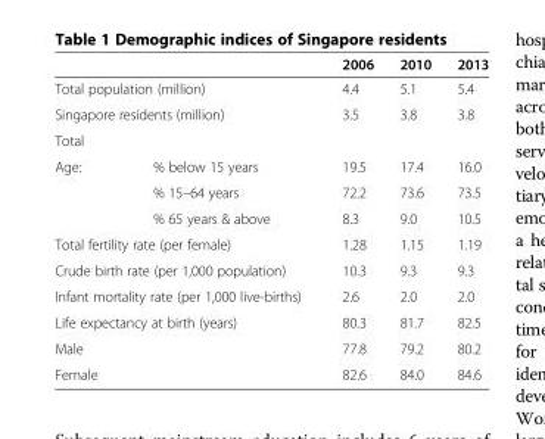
<table><thead><tr><td></td><td></td><td>2006</td><td>2010</td><td>2013</td></tr></thead><tbody><tr><td colspan="2">Total population (million)</td><td>4.4</td><td>5.1</td><td>5.4</td></tr><tr><td colspan="2">Singapore residents (million)</td><td>3.5</td><td>3.8</td><td>3.8</td></tr><tr><td colspan="5">Total</td></tr><tr><td rowspan="3">Age:</td><td>% below 15 years</td><td>19.5</td><td>17.4</td><td>16.0</td></tr><tr><td>% 15–64 years</td><td>72.2</td><td>73.6</td><td>73.5</td></tr><tr><td>% 65 years &amp; above</td><td>8.3</td><td>9.0</td><td>10.5</td></tr><tr><td colspan="2">Total fertility rate (per female)</td><td>1.28</td><td>1.15</td><td>1.19</td></tr><tr><td colspan="2">Crude birth rate (per 1,000 population)</td><td>10.3</td><td>9.3</td><td>9.3</td></tr><tr><td colspan="2">Infant mortality rate (per 1,000 live-births)</td><td>2.6</td><td>2.0</td><td>2.0</td></tr><tr><td colspan="2">Life expectancy at birth (years)</td><td>80.3</td><td>81.7</td><td>82.5</td></tr><tr><td colspan="2">Male</td><td>77.8</td><td>79.2</td><td>80.2</td></tr><tr><td colspan="2">Female</td><td>82.6</td><td>84.0</td><td>84.6</td></tr></tbody></table>